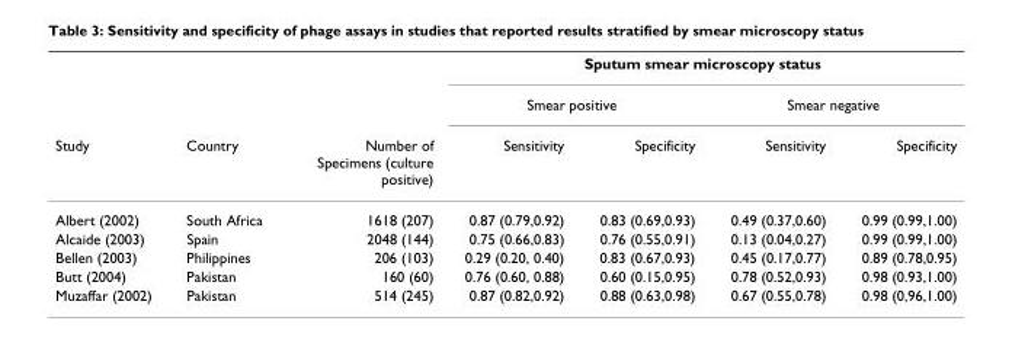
<table><thead><tr><td rowspan="3">Study</td><td rowspan="3">Country</td><td rowspan="3">Number of Specimens (culture positive)</td><td colspan="4">Sputum smear microscopy status</td></tr><tr><td colspan="2">Smear positive</td><td colspan="2">Smear negative</td></tr><tr><td>Sensitivity</td><td>Specificity</td><td>Sensitivity</td><td>Specificity</td></tr></thead><tbody><tr><td>Albert (2002)</td><td>South Africa</td><td>1618 (207)</td><td>0.87 (0.79,0.92)</td><td>0.83 (0.69,0.93)</td><td>0.49 (0.37,0.60)</td><td>0.99 (0.99,1.00)</td></tr><tr><td>Alcaide (2003)</td><td>Spain</td><td>2048 (144)</td><td>0.75 (0.66,0.83)</td><td>0.76 (0.55,0.91)</td><td>0.13 (0.04,0.27)</td><td>0.99 (0.99,1.00)</td></tr><tr><td>Bellen (2003)</td><td>Philippines</td><td>206 (103)</td><td>0.29 (0.20, 0.40)</td><td>0.83 (0.67,0.93)</td><td>0.45 (0.17,0.77)</td><td>0.89 (0.78,0.95)</td></tr><tr><td>Butt (2004)</td><td>Pakistan</td><td>160 (60)</td><td>0.76 (0.60, 0.88)</td><td>0.60 (0.15,0.95)</td><td>0.78 (0.52,0.93)</td><td>0.98 (0.93,1.00)</td></tr><tr><td>Muzaffar (2002)</td><td>Pakistan</td><td>514 (245)</td><td>0.87 (0.82,0.92)</td><td>0.88 (0.63,0.98)</td><td>0.67 (0.55,0.78)</td><td>0.98 (0,96,1.00)</td></tr></tbody></table>